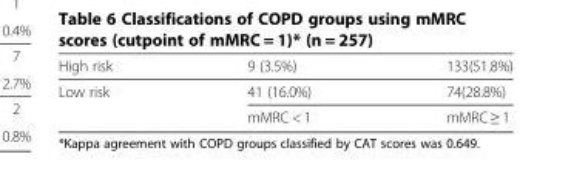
<table><tbody><tr><td>High risk</td><td>9 (3.5%)</td><td>133(51.8%)</td></tr><tr><td rowspan="2">Low risk</td><td>41 (16.0%)</td><td>74(28.8%)</td></tr><tr><td>mMRC &lt; 1</td><td>mMRC ≥ 1</td></tr></tbody></table>